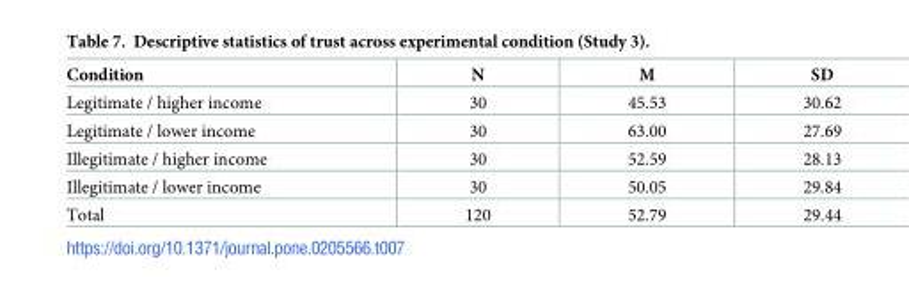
<table><thead><tr><td>Condition</td><td>N</td><td>M</td><td>SD</td></tr></thead><tbody><tr><td>Legitimate / higher income</td><td>30</td><td>45.53</td><td>30.62</td></tr><tr><td>Legitimate / lower income</td><td>30</td><td>63.00</td><td>27.69</td></tr><tr><td>Illegitimate / higher income</td><td>30</td><td>52.59</td><td>28.13</td></tr><tr><td>Illegitimate / lower income</td><td>30</td><td>50.05</td><td>29.84</td></tr><tr><td>Total</td><td>120</td><td>52.79</td><td>29.44</td></tr></tbody></table>